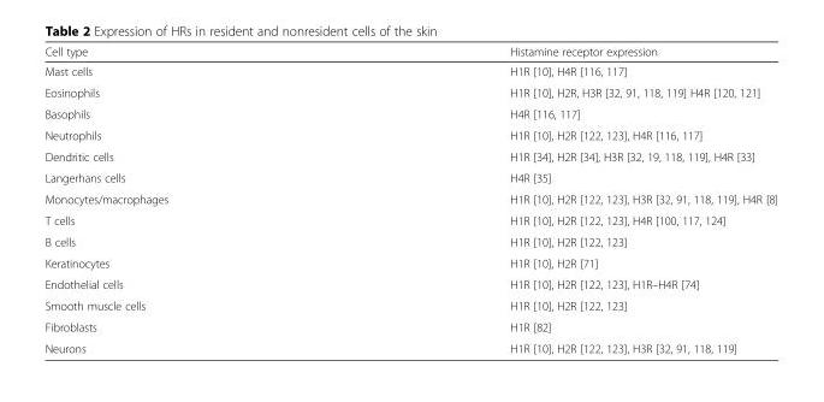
<table><thead><tr><td>Cell type</td><td>Histamine receptor expression</td></tr></thead><tbody><tr><td>Mast cells</td><td>H1R [10], H4R [116, 117]</td></tr><tr><td>Eosinophils</td><td>H1R [10], H2R, H3R [32, 91, 118, 119] H4R [120, 121]</td></tr><tr><td>Basophils</td><td>H4R [116, 117]</td></tr><tr><td>Neutrophils</td><td>H1R [10], H2R [122, 123], H4R [116, 117]</td></tr><tr><td>Dendritic cells</td><td>H1R [34], H2R [34], H3R [32, 19, 118, 119], H4R [33]</td></tr><tr><td>Langerhans cells</td><td>H4R [35]</td></tr><tr><td>Monocytes/macrophages</td><td>H1R [10], H2R [122, 123], H3R [32, 91, 118, 119], H4R [8]</td></tr><tr><td>T cells</td><td>H1R [10], H2R [122, 123], H4R [100, 117, 124]</td></tr><tr><td>B cells</td><td>H1R [10], H2R [122, 123]</td></tr><tr><td>Keratinocytes</td><td>H1R [10], H2R [71]</td></tr><tr><td>Endothelial cells</td><td>H1R [10], H2R [122, 123], H1R–H4R [74]</td></tr><tr><td>Smooth muscle cells</td><td>H1R [10], H2R [122, 123]</td></tr><tr><td>Fibroblasts</td><td>H1R [82]</td></tr><tr><td>Neurons</td><td>H1R [10], H2R [122, 123], H3R [32, 91, 118, 119]</td></tr></tbody></table>